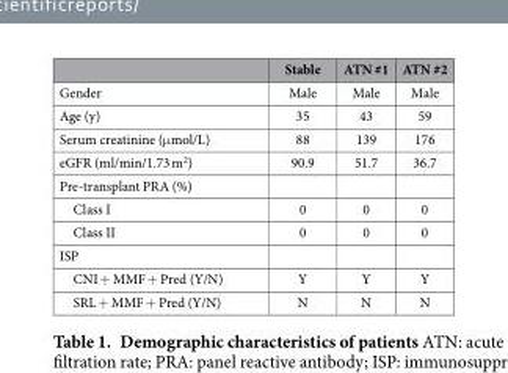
<table><thead><tr><td></td><td>Stable</td><td>ATN #1</td><td>ATN #2</td></tr></thead><tbody><tr><td>Gender</td><td>Male</td><td>Male</td><td>Male</td></tr><tr><td>Age (y)</td><td>35</td><td>43</td><td>59</td></tr><tr><td>Serum creatinine (μ mol/L)</td><td>88</td><td>139</td><td>176</td></tr><tr><td>eGFR (ml/min/1.73 m<sup>2</sup>)</td><td>90.9</td><td>51.7</td><td>36.7</td></tr><tr><td colspan="4">Pre-transplant PRA (%)</td></tr><tr><td>Class I</td><td>0</td><td>0</td><td>0</td></tr><tr><td>Class II</td><td>0</td><td>0</td><td>0</td></tr><tr><td colspan="4">ISP</td></tr><tr><td>CNI + MMF + Pred (Y/N)</td><td>Y</td><td>Y</td><td>Y</td></tr><tr><td>SRL + MMF + Pred (Y/N)</td><td>N</td><td>N</td><td>N</td></tr></tbody></table>